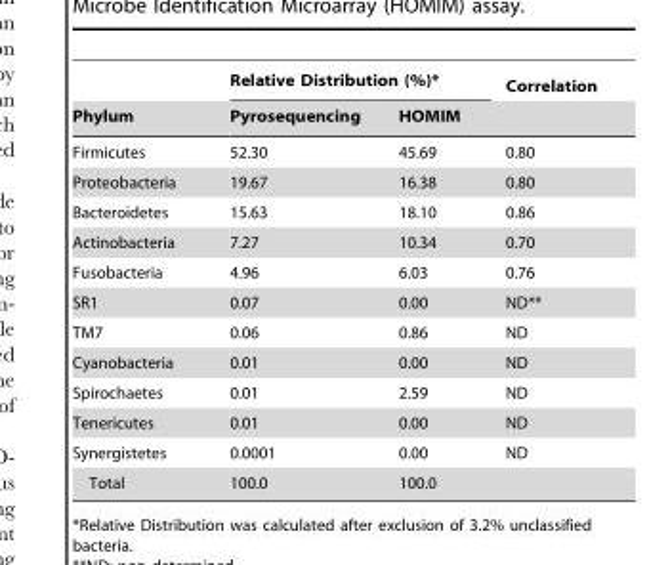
<table><thead><tr><td rowspan="2">Phylum</td><td colspan="2">Relative Distribution (%)*</td><td rowspan="2">Correlation</td></tr><tr><td>Pyrosequencing</td><td>HOMIM</td></tr></thead><tbody><tr><td>Firmicutes</td><td>52.30</td><td>45.69</td><td>0.80</td></tr><tr><td>Proteobacteria</td><td>19.67</td><td>16.38</td><td>0.80</td></tr><tr><td>Bacteroidetes</td><td>15.63</td><td>18.10</td><td>0.86</td></tr><tr><td>Actinobacteria</td><td>7.27</td><td>10.34</td><td>0.70</td></tr><tr><td>Fusobacteria</td><td>4.96</td><td>6.03</td><td>0.76</td></tr><tr><td>SR1</td><td>0.07</td><td>0.00</td><td>ND**</td></tr><tr><td>TM7</td><td>0.06</td><td>0.86</td><td>ND</td></tr><tr><td>Cyanobacteria</td><td>0.01</td><td>0.00</td><td>ND</td></tr><tr><td>Spirochaetes</td><td>0.01</td><td>2.59</td><td>ND</td></tr><tr><td>Tenericutes</td><td>0.01</td><td>0.00</td><td>ND</td></tr><tr><td>Synergistetes</td><td>0.0001</td><td>0.00</td><td>ND</td></tr><tr><td>Total</td><td>100.0</td><td>100.0</td><td></td></tr></tbody></table>